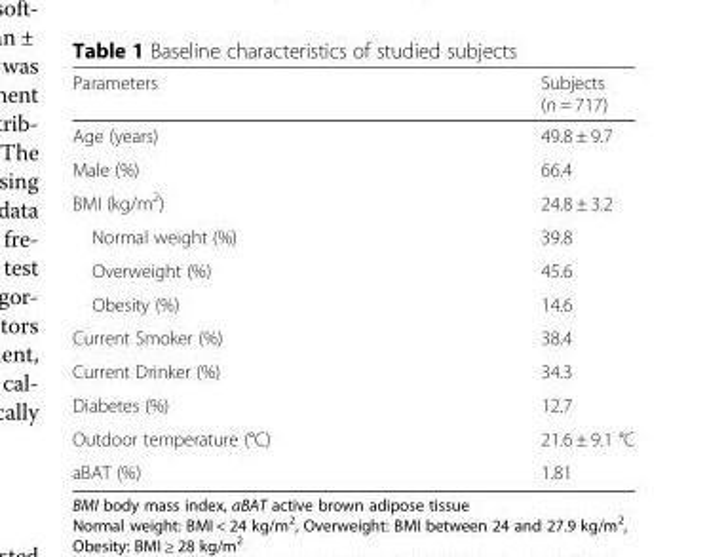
<table><thead><tr><td>Parameters</td><td>Subjects (n = 717)</td></tr></thead><tbody><tr><td>Age (years)</td><td>49.8 ± 9.7</td></tr><tr><td>Male (%)</td><td>66.4</td></tr><tr><td>BMI (kg/m<sup>2</sup>)</td><td>24.8 ± 3.2</td></tr><tr><td>Normal weight (%)</td><td>39.8</td></tr><tr><td>Overweight (%)</td><td>45.6</td></tr><tr><td>Obesity (%)</td><td>14.6</td></tr><tr><td>Current Smoker (%)</td><td>38.4</td></tr><tr><td>Current Drinker (%)</td><td>34.3</td></tr><tr><td>Diabetes (%)</td><td>12.7</td></tr><tr><td>Outdoor temperature (°C)</td><td>21.6 ± 9.1 °C</td></tr><tr><td>aBAT (%)</td><td>1.81</td></tr></tbody></table>